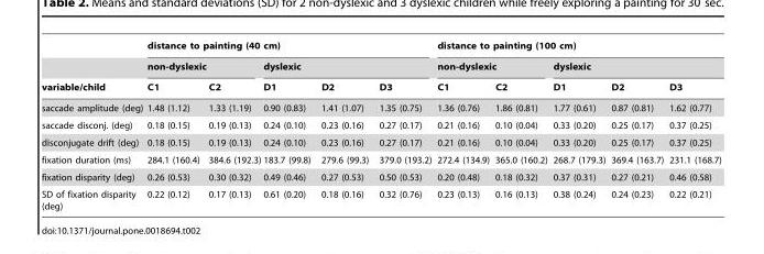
<table><thead><tr><td rowspan="3">variable/child</td><td colspan="5">distance to painting (40 cm)</td><td colspan="5">distance to painting (100 cm)</td></tr><tr><td colspan="2">non-dyslexic</td><td colspan="3">dyslexic</td><td colspan="2">non-dyslexic</td><td colspan="3">dyslexic</td></tr><tr><td>C1</td><td>C2</td><td>D1</td><td>D2</td><td>D3</td><td>C1</td><td>C2</td><td>D1</td><td>D2</td><td>D3</td></tr></thead><tbody><tr><td>saccade amplitude (deg)</td><td>1.48 (1.12)</td><td>1.33 (1.19)</td><td>0.90 (0.83)</td><td>1.41 (1.07)</td><td>1.35 (0.75)</td><td>1.36 (0.76)</td><td>1.86 (0.81)</td><td>1.77 (0.61)</td><td>0.87 (0.81)</td><td>1.62 (0.77)</td></tr><tr><td>saccade disconj. (deg)</td><td>0.18 (0.15)</td><td>0.19 (0.13)</td><td>0.24 (0.10)</td><td>0.23 (0.16)</td><td>0.27 (0.17)</td><td>0.21 (0.16)</td><td>0.10 (0.04)</td><td>0.33 (0.20)</td><td>0.25 (0.17)</td><td>0.37 (0.25)</td></tr><tr><td>disconjugate drift (deg)</td><td>0.18 (0.15)</td><td>0.19 (0.13)</td><td>0.24 (0.10)</td><td>0.23 (0.16)</td><td>0.27 (0.17)</td><td>0.21 (0.16)</td><td>0.10 (0.04)</td><td>0.33 (0.20)</td><td>0.25 (0.17)</td><td>0.37 (0.25)</td></tr><tr><td>fixation duration (ms)</td><td>284.1 (160.4)</td><td>384.6 (192.3)</td><td>183.7 (99.8)</td><td>279.6 (99.3)</td><td>379.0 (193.2)</td><td>272.4 (134.9)</td><td>365.0 (160.2)</td><td>268.7 (179.3)</td><td>369.4 (163.7)</td><td>231.1 (168.7)</td></tr><tr><td>fixation disparity (deg)</td><td>0.26 (0.53)</td><td>0.30 (0.32)</td><td>0.49 (0.46)</td><td>0.27 (0.53)</td><td>0.50 (0.53)</td><td>0.20 (0.48)</td><td>0.18 (0.32)</td><td>0.37 (0.31)</td><td>0.27 (0.21)</td><td>0.46 (0.58)</td></tr><tr><td>SD of fixation disparity (deg)</td><td>0.22 (0.12)</td><td>0.17 (0.13)</td><td>0.61 (0.20)</td><td>0.18 (0.16)</td><td>0.32 (0.76)</td><td>0.23 (0.13)</td><td>0.16 (0.13)</td><td>0.38 (0.24)</td><td>0.24 (0.23)</td><td>0.22 (0.21)</td></tr></tbody></table>